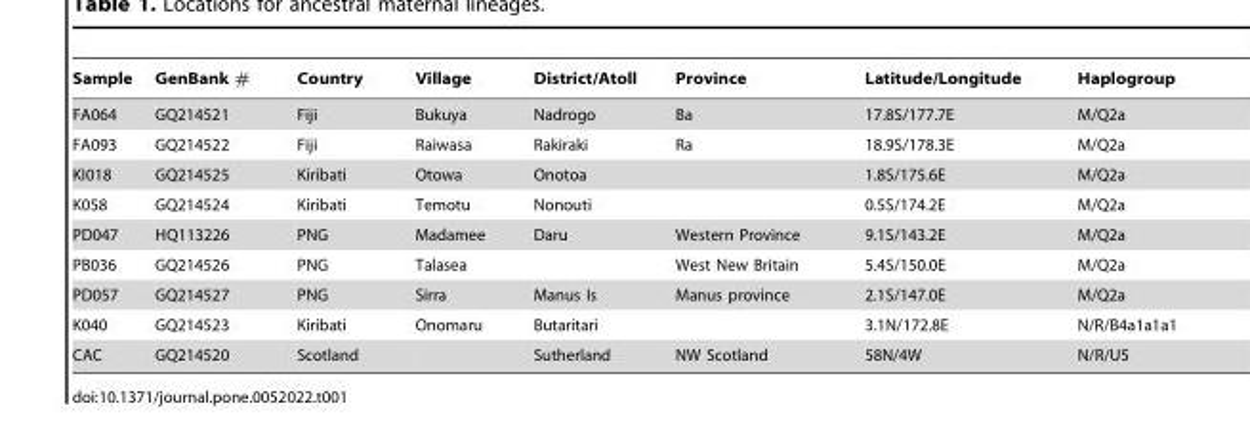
<table><thead><tr><td>Sample</td><td>GenBank #</td><td>Country</td><td>Village</td><td>District/Atoll</td><td>Province</td><td>Latitude/Longitude</td><td>Haplogroup</td></tr></thead><tbody><tr><td>FA064</td><td>GQ214521</td><td>Fiji</td><td>Bukuya</td><td>Nadrogo</td><td>Ba</td><td>17.8S/177.7E</td><td>M/Q2a</td></tr><tr><td>FA093</td><td>GQ214522</td><td>Fiji</td><td>Raiwasa</td><td>Rakiraki</td><td>Ra</td><td>18.9S/178.3E</td><td>M/Q2a</td></tr><tr><td>KI018</td><td>GQ214525</td><td>Kiribati</td><td>Otowa</td><td>Onotoa</td><td></td><td>1.8S/175.6E</td><td>M/Q2a</td></tr><tr><td>K058</td><td>GQ214524</td><td>Kiribati</td><td>Temotu</td><td>Nonouti</td><td></td><td>0.5S/174.2E</td><td>M/Q2a</td></tr><tr><td>PD047</td><td>HQ113226</td><td>PNG</td><td>Madamee</td><td>Daru</td><td>Western Province</td><td>9.1S/143.2E</td><td>M/Q2a</td></tr><tr><td>PB036</td><td>GQ214526</td><td>PNG</td><td>Talasea</td><td></td><td>West New Britain</td><td>5.4S/150.0E</td><td>M/Q2a</td></tr><tr><td>PD057</td><td>GQ214527</td><td>PNG</td><td>Sirra</td><td>Manus Is</td><td>Manus province</td><td>2.1S/147.0E</td><td>M/Q2a</td></tr><tr><td>K040</td><td>GQ214523</td><td>Kiribati</td><td>Onomaru</td><td>Butaritari</td><td></td><td>3.1N/172.8E</td><td>N/R/B4a1a1a1</td></tr><tr><td>CAC</td><td>GQ214520</td><td>Scotland</td><td></td><td>Sutherland</td><td>NW Scotland</td><td>58N/4W</td><td>N/R/U5</td></tr></tbody></table>